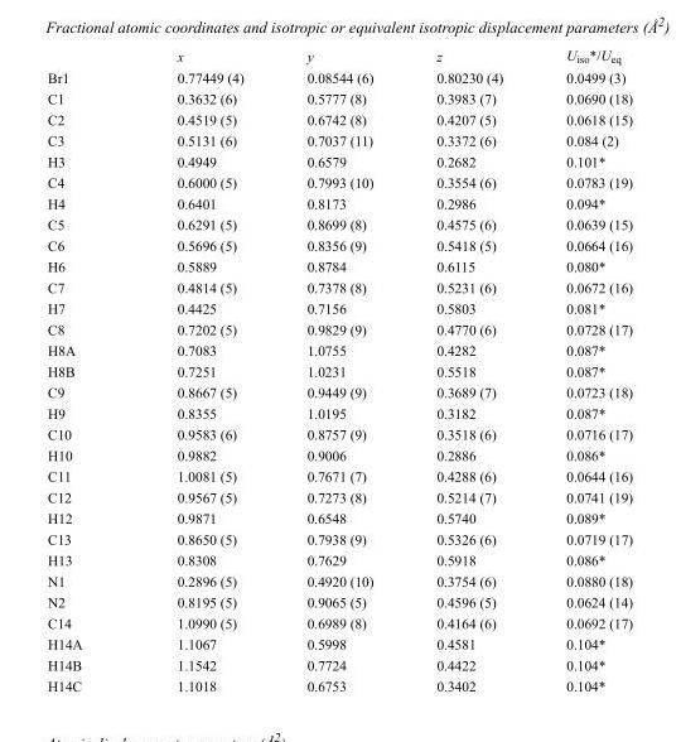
<table><thead><tr><td></td><td>x</td><td>y</td><td>z</td><td>U<sub>iso</sub>*/U<sub>eq</sub></td></tr></thead><tbody><tr><td>Br1</td><td>0.77449 (4)</td><td>0.08544 (6)</td><td>0.80230 (4)</td><td>0.0499 (3)</td></tr><tr><td>C1</td><td>0.3632 (6)</td><td>0.5777 (8)</td><td>0.3983 (7)</td><td>0.0690 (18)</td></tr><tr><td>C2</td><td>0.4519 (5)</td><td>0.6742 (8)</td><td>0.4207 (5)</td><td>0.0618 (15)</td></tr><tr><td>C3</td><td>0.5131 (6)</td><td>0.7037 (11)</td><td>0.3372 (6)</td><td>0.084 (2)</td></tr><tr><td>H3</td><td>0.4949</td><td>0.6579</td><td>0.2682</td><td>0.101*</td></tr><tr><td>C4</td><td>0.6000 (5)</td><td>0.7993 (10)</td><td>0.3554 (6)</td><td>0.0783 (19)</td></tr><tr><td>H4</td><td>0.6401</td><td>0.8173</td><td>0.2986</td><td>0.094*</td></tr><tr><td>C5</td><td>0.6291 (5)</td><td>0.8699 (8)</td><td>0.4575 (6)</td><td>0.0639 (15)</td></tr><tr><td>C6</td><td>0.5696 (5)</td><td>0.8356 (9)</td><td>0.5418 (5)</td><td>0.0664 (16)</td></tr><tr><td>H6</td><td>0.5889</td><td>0.8784</td><td>0.6115</td><td>0.080*</td></tr><tr><td>C7</td><td>0.4814 (5)</td><td>0.7378 (8)</td><td>0.5231 (6)</td><td>0.0672 (16)</td></tr><tr><td>H7</td><td>0.4425</td><td>0.7156</td><td>0.5803</td><td>0.081*</td></tr><tr><td>C8</td><td>0.7202 (5)</td><td>0.9829 (9)</td><td>0.4770 (6)</td><td>0.0728 (17)</td></tr><tr><td>H8A</td><td>0.7083</td><td>1.0755</td><td>0.4282</td><td>0.087*</td></tr><tr><td>H8B</td><td>0.7251</td><td>1.0231</td><td>0.5518</td><td>0.087*</td></tr><tr><td>C9</td><td>0.8667 (5)</td><td>0.9449 (9)</td><td>0.3689 (7)</td><td>0.0723 (18)</td></tr><tr><td>H9</td><td>0.8355</td><td>1.0195</td><td>0.3182</td><td>0.087*</td></tr><tr><td>C10</td><td>0.9583 (6)</td><td>0.8757 (9)</td><td>0.3518 (6)</td><td>0.0716 (17)</td></tr><tr><td>H10</td><td>0.9882</td><td>0.9006</td><td>0.2886</td><td>0.086*</td></tr><tr><td>C11</td><td>1.0081 (5)</td><td>0.7671 (7)</td><td>0.4288 (6)</td><td>0.0644 (16)</td></tr><tr><td>C12</td><td>0.9567 (5)</td><td>0.7273 (8)</td><td>0.5214 (7)</td><td>0.0741 (19)</td></tr><tr><td>H12</td><td>0.9871</td><td>0.6548</td><td>0.5740</td><td>0.089*</td></tr><tr><td>C13</td><td>0.8650 (5)</td><td>0.7938 (9)</td><td>0.5326 (6)</td><td>0.0719 (17)</td></tr><tr><td>H13</td><td>0.8308</td><td>0.7629</td><td>0.5918</td><td>0.086*</td></tr><tr><td>N1</td><td>0.2896 (5)</td><td>0.4920 (10)</td><td>0.3754 (6)</td><td>0.0880 (18)</td></tr><tr><td>N2</td><td>0.8195 (5)</td><td>0.9065 (5)</td><td>0.4596 (5)</td><td>0.0624 (14)</td></tr><tr><td>C14</td><td>1.0990 (5)</td><td>0.6989 (8)</td><td>0.4164 (6)</td><td>0.0692 (17)</td></tr><tr><td>H14A</td><td>1.1067</td><td>0.5998</td><td>0.4581</td><td>0.104*</td></tr><tr><td>H14B</td><td>1.1542</td><td>0.7724</td><td>0.4422</td><td>0.104*</td></tr><tr><td>H14C</td><td>1.1018</td><td>0.6753</td><td>0.3402</td><td>0.104*</td></tr></tbody></table>